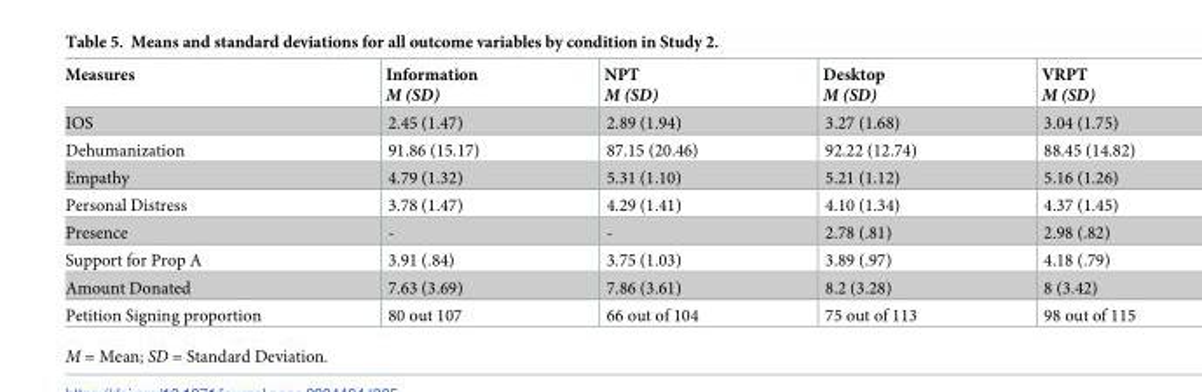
<table><thead><tr><td>Measures</td><td>Information M (SD)</td><td>NPT M (SD)</td><td>Desktop M (SD)</td><td>VRPT M (SD)</td></tr></thead><tbody><tr><td>IOS</td><td>2.45 (1.47)</td><td>2.89 (1.94)</td><td>3.27 (1.68)</td><td>3.04 (1.75)</td></tr><tr><td>Dehumanization</td><td>91.86 (15.17)</td><td>87.15 (20.46)</td><td>92.22 (12.74)</td><td>88.45 (14.82)</td></tr><tr><td>Empathy</td><td>4.79 (1.32)</td><td>5.31 (1.10)</td><td>5.21 (1.12)</td><td>5.16 (1.26)</td></tr><tr><td>Personal Distress</td><td>3.78 (1.47)</td><td>4.29 (1.41)</td><td>4.10 (1.34)</td><td>4.37 (1.45)</td></tr><tr><td>Presence</td><td>-</td><td>-</td><td>2.78 (.81)</td><td>2.98 (.82)</td></tr><tr><td>Support for Prop A</td><td>3.91 (.84)</td><td>3.75 (1.03)</td><td>3.89 (.97)</td><td>4.18 (.79)</td></tr><tr><td>Amount Donated</td><td>7.63 (3.69)</td><td>7.86 (3.61)</td><td>8.2 (3.28)</td><td>8 (3.42)</td></tr><tr><td>Petition Signing proportion</td><td>80 out 107</td><td>66 out of 104</td><td>75 out of 113</td><td>98 out of 115</td></tr></tbody></table>